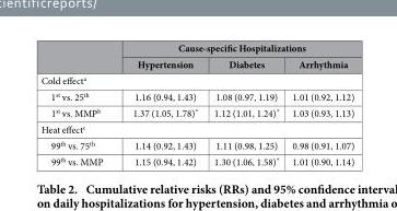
<table><thead><tr><td rowspan="2"></td><td colspan="3">Cause-specific Hospitalizations</td></tr><tr><td>Hypertension</td><td>Diabetes</td><td>Arrhythmia</td></tr></thead><tbody><tr><td colspan="4">Cold effect<sup>a</sup></td></tr><tr><td>1<sup>st</sup> vs. 25<sup>th</sup></td><td>1.16 (0.94, 1.43)</td><td>1.08 (0.97, 1.19)</td><td>1.01 (0.92, 1.12)</td></tr><tr><td>1<sup>st</sup> vs. MMP<sup>b</sup></td><td>1.37 (1.05, 1.78)*</td><td>1.12 (1.01, 1.24)*</td><td>1.03 (0.93, 1.13)</td></tr><tr><td colspan="4">Heat effect<sup>c</sup></td></tr><tr><td>99<sup>th</sup> vs. 75<sup>th</sup></td><td>1.14 (0.92, 1.43)</td><td>1.11 (0.98, 1.25)</td><td>0.98 (0.91, 1.07)</td></tr><tr><td>99<sup>th</sup> vs. MMP</td><td>1.15 (0.94, 1.42)</td><td>1.30 (1.06, 1.58)*</td><td>1.01 (0.90, 1.14)</td></tr></tbody></table>